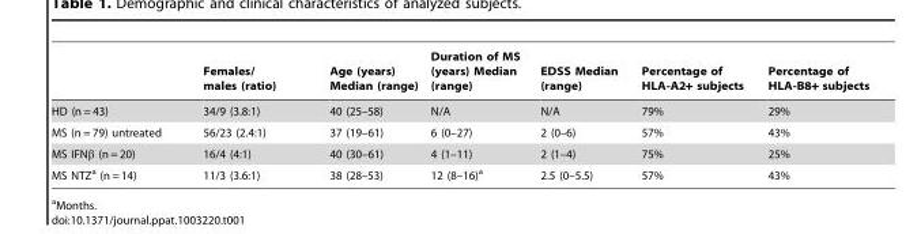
<table><thead><tr><td></td><td>Females/ males (ratio)</td><td>Age (years) Median (range)</td><td>Duration of MS (years) Median (range)</td><td>EDSS Median (range)</td><td>Percentage of HLA-A2+ subjects</td><td>Percentage of HLA-B8+ subjects</td></tr></thead><tbody><tr><td>HD (n = 43)</td><td>34/9 (3.8:1)</td><td>40 (25–58)</td><td>N/A</td><td>N/A</td><td>79%</td><td>29%</td></tr><tr><td>MS (n = 79) untreated</td><td>56/23 (2.4:1)</td><td>37 (19–61)</td><td>6 (0–27)</td><td>2 (0–6)</td><td>57%</td><td>43%</td></tr><tr><td>MS IFNβ (n = 20)</td><td>16/4 (4:1)</td><td>40 (30–61)</td><td>4 (1–11)</td><td>2 (1–4)</td><td>75%</td><td>25%</td></tr><tr><td>MS NTZ<sup>a</sup> (n = 14)</td><td>11/3 (3.6:1)</td><td>38 (28–53)</td><td>12 (8–16)<sup>a</sup></td><td>2.5 (0–5.5)</td><td>57%</td><td>43%</td></tr></tbody></table>